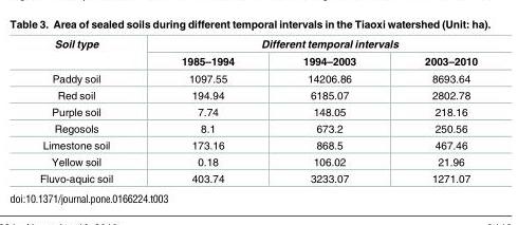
<table><thead><tr><td rowspan="2">Soil type</td><td colspan="3">Different temporal intervals</td></tr><tr><td>1985–1994</td><td>1994–2003</td><td>2003–2010</td></tr></thead><tbody><tr><td>Paddy soil</td><td>1097.55</td><td>14206.86</td><td>8693.64</td></tr><tr><td>Red soil</td><td>194.94</td><td>6185.07</td><td>2802.78</td></tr><tr><td>Purple soil</td><td>7.74</td><td>148.05</td><td>218.16</td></tr><tr><td>Regosols</td><td>8.1</td><td>673.2</td><td>250.56</td></tr><tr><td>Limestone soil</td><td>173.16</td><td>868.5</td><td>467.46</td></tr><tr><td>Yellow soil</td><td>0.18</td><td>106.02</td><td>21.96</td></tr><tr><td>Fluvo-aquic soil</td><td>403.74</td><td>3233.07</td><td>1271.07</td></tr></tbody></table>